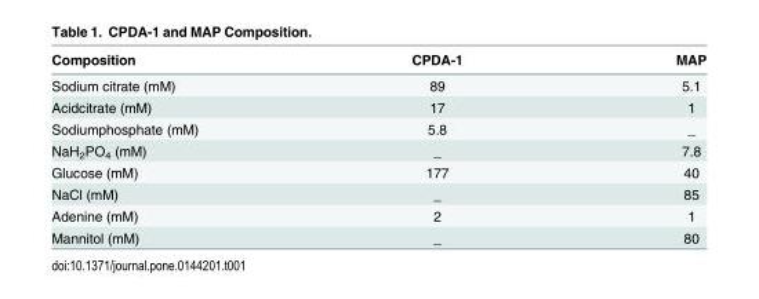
<table><thead><tr><td>Composition</td><td>CPDA-1</td><td>MAP</td></tr></thead><tbody><tr><td>Sodium citrate (mM)</td><td>89</td><td>5.1</td></tr><tr><td>Acidcitrate (mM)</td><td>17</td><td>1</td></tr><tr><td>Sodiumphosphate (mM)</td><td>5.8</td><td>_</td></tr><tr><td>NaH<sub>2</sub>PO<sub>4</sub> (mM)</td><td>_</td><td>7.8</td></tr><tr><td>Glucose (mM)</td><td>177</td><td>40</td></tr><tr><td>NaCl (mM)</td><td>_</td><td>85</td></tr><tr><td>Adenine (mM)</td><td>2</td><td>1</td></tr><tr><td>Mannitol (mM)</td><td>_</td><td>80</td></tr></tbody></table>